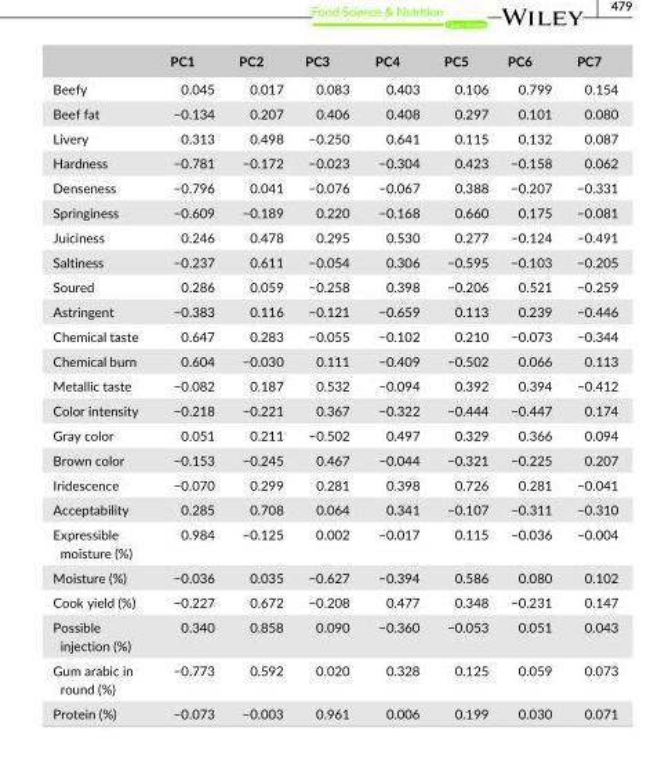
<table><thead><tr><td></td><td>PC1</td><td>PC2</td><td>PC3</td><td>PC4</td><td>PC5</td><td>PC6</td><td>PC7</td></tr></thead><tbody><tr><td>Beefy</td><td>0.045</td><td>0.017</td><td>0.083</td><td>0.403</td><td>0.106</td><td>0.799</td><td>0.154</td></tr><tr><td>Beef fat</td><td>−0.134</td><td>0.207</td><td>0.406</td><td>0.408</td><td>0.297</td><td>0.101</td><td>0.080</td></tr><tr><td>Livery</td><td>0.313</td><td>0.498</td><td>−0.250</td><td>0.641</td><td>0.115</td><td>0.132</td><td>0.087</td></tr><tr><td>Hardness</td><td>−0.781</td><td>−0.172</td><td>−0.023</td><td>−0.304</td><td>0.423</td><td>−0.158</td><td>0.062</td></tr><tr><td>Denseness</td><td>−0.796</td><td>0.041</td><td>−0.076</td><td>−0.067</td><td>0.388</td><td>−0.207</td><td>−0.331</td></tr><tr><td>Springiness</td><td>−0.609</td><td>−0.189</td><td>0.220</td><td>−0.168</td><td>0.660</td><td>0.175</td><td>−0.081</td></tr><tr><td>Juiciness</td><td>0.246</td><td>0.478</td><td>0.295</td><td>0.530</td><td>0.277</td><td>−0.124</td><td>−0.491</td></tr><tr><td>Saltiness</td><td>−0.237</td><td>0.611</td><td>−0.054</td><td>0.306</td><td>−0.595</td><td>−0.103</td><td>−0.205</td></tr><tr><td>Soured</td><td>0.286</td><td>0.059</td><td>−0.258</td><td>0.398</td><td>−0.206</td><td>0.521</td><td>−0.259</td></tr><tr><td>Astringent</td><td>−0.383</td><td>0.116</td><td>−0.121</td><td>−0.659</td><td>0.113</td><td>0.239</td><td>−0.446</td></tr><tr><td>Chemical taste</td><td>0.647</td><td>0.283</td><td>−0.055</td><td>−0.102</td><td>0.210</td><td>−0.073</td><td>−0.344</td></tr><tr><td>Chemical burn</td><td>0.604</td><td>−0.030</td><td>0.111</td><td>−0.409</td><td>−0.502</td><td>0.066</td><td>0.113</td></tr><tr><td>Metallic taste</td><td>−0.082</td><td>0.187</td><td>0.532</td><td>−0.094</td><td>0.392</td><td>0.394</td><td>−0.412</td></tr><tr><td>Color intensity</td><td>−0.218</td><td>−0.221</td><td>0.367</td><td>−0.322</td><td>−0.444</td><td>−0.447</td><td>0.174</td></tr><tr><td>Gray color</td><td>0.051</td><td>0.211</td><td>−0.502</td><td>0.497</td><td>0.329</td><td>0.366</td><td>0.094</td></tr><tr><td>Brown color</td><td>−0.153</td><td>−0.245</td><td>0.467</td><td>−0.044</td><td>−0.321</td><td>−0.225</td><td>0.207</td></tr><tr><td>Iridescence</td><td>−0.070</td><td>0.299</td><td>0.281</td><td>0.398</td><td>0.726</td><td>0.281</td><td>−0.041</td></tr><tr><td>Acceptability</td><td>0.285</td><td>0.708</td><td>0.064</td><td>0.341</td><td>−0.107</td><td>−0.311</td><td>−0.310</td></tr><tr><td>Expressible moisture (%)</td><td>0.984</td><td>−0.125</td><td>0.002</td><td>−0.017</td><td>0.115</td><td>−0.036</td><td>−0.004</td></tr><tr><td>Moisture (%)</td><td>−0.036</td><td>0.035</td><td>−0.627</td><td>−0.394</td><td>0.586</td><td>0.080</td><td>0.102</td></tr><tr><td>Cook yield (%)</td><td>−0.227</td><td>0.672</td><td>−0.208</td><td>0.477</td><td>0.348</td><td>−0.231</td><td>0.147</td></tr><tr><td>Possible injection (%)</td><td>0.340</td><td>0.858</td><td>0.090</td><td>−0.360</td><td>−0.053</td><td>0.051</td><td>0.043</td></tr><tr><td>Gum arabic in round (%)</td><td>−0.773</td><td>0.592</td><td>0.020</td><td>0.328</td><td>0.125</td><td>0.059</td><td>0.073</td></tr><tr><td>Protein (%)</td><td>−0.073</td><td>−0.003</td><td>0.961</td><td>0.006</td><td>0.199</td><td>0.030</td><td>0.071</td></tr></tbody></table>